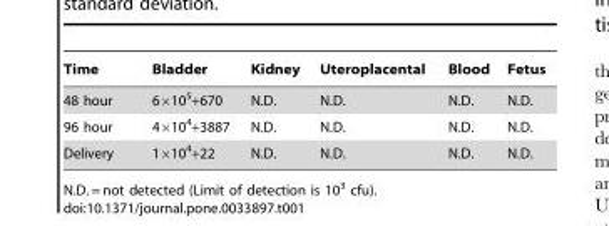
<table><thead><tr><td>Time</td><td>Bladder</td><td>Kidney</td><td>Uteroplacental</td><td>Blood</td><td>Fetus</td></tr></thead><tbody><tr><td>48 hour</td><td>6×10<sup>5</sup>+670</td><td>N.D.</td><td>N.D.</td><td>N.D.</td><td>N.D.</td></tr><tr><td>96 hour</td><td>4×10<sup>4</sup>+3887</td><td>N.D.</td><td>N.D.</td><td>N.D.</td><td>N.D.</td></tr><tr><td>Delivery</td><td>1×10<sup>4</sup>+22</td><td>N.D.</td><td>N.D.</td><td>N.D.</td><td>N.D.</td></tr></tbody></table>